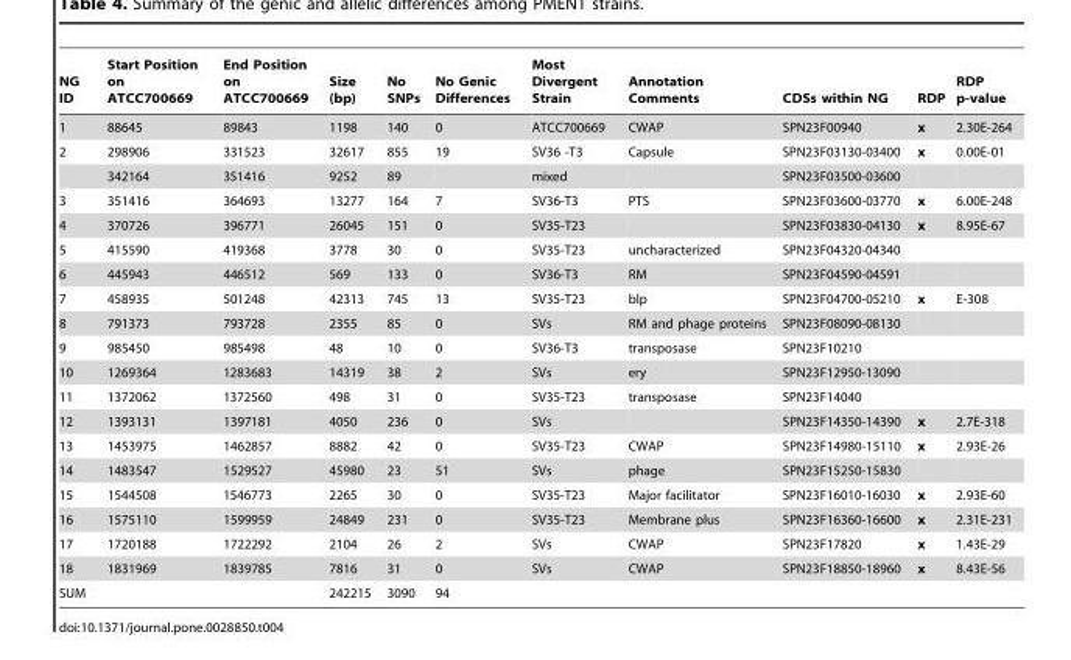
<table><thead><tr><td>NG ID</td><td>Start Position on ATCC700669</td><td>End Position on ATCC700669</td><td>Size (bp)</td><td>No SNPs</td><td>No Genic Differences</td><td>Most Divergent Strain</td><td>Annotation Comments</td><td>CDSs within NG</td><td>RDP</td><td>RDP p-value</td></tr></thead><tbody><tr><td>1</td><td>88645</td><td>89843</td><td>1198</td><td>140</td><td>0</td><td>ATCC700669</td><td>CWAP</td><td>SPN23F00940</td><td>x</td><td>2.30E-264</td></tr><tr><td rowspan="2">2</td><td>298906</td><td>331523</td><td>32617</td><td>855</td><td>19</td><td>SV36 -T3</td><td>Capsule</td><td>SPN23F03130-03400</td><td>x</td><td>0.00E-01</td></tr><tr><td>342164</td><td>351416</td><td>9252</td><td>89</td><td></td><td>mixed</td><td></td><td>SPN23F03500-03600</td><td></td><td></td></tr><tr><td>3</td><td>351416</td><td>364693</td><td>13277</td><td>164</td><td>7</td><td>SV36-T3</td><td>PTS</td><td>SPN23F03600-03770</td><td>x</td><td>6.00E-248</td></tr><tr><td>4</td><td>370726</td><td>396771</td><td>26045</td><td>151</td><td>0</td><td>SV35-T23</td><td></td><td>SPN23F03830-04130</td><td>x</td><td>8.95E-67</td></tr><tr><td>5</td><td>415590</td><td>419368</td><td>3778</td><td>30</td><td>0</td><td>SV35-T23</td><td>uncharacterized</td><td>SPN23F04320-04340</td><td></td><td></td></tr><tr><td>6</td><td>445943</td><td>446512</td><td>569</td><td>133</td><td>0</td><td>SV36-T3</td><td>RM</td><td>SPN23F04590-04591</td><td></td><td></td></tr><tr><td>7</td><td>458935</td><td>501248</td><td>42313</td><td>745</td><td>13</td><td>SV35-T23</td><td>blp</td><td>SPN23F04700-05210</td><td>x</td><td>E-308</td></tr><tr><td>8</td><td>791373</td><td>793728</td><td>2355</td><td>85</td><td>0</td><td>SVs</td><td>RM and phage proteins</td><td>SPN23F08090-08130</td><td></td><td></td></tr><tr><td>9</td><td>985450</td><td>985498</td><td>48</td><td>10</td><td>0</td><td>SV36-T3</td><td>transposase</td><td>SPN23F10210</td><td></td><td></td></tr><tr><td>10</td><td>1269364</td><td>1283683</td><td>14319</td><td>38</td><td>2</td><td>SVs</td><td>ery</td><td>SPN23F12950-13090</td><td></td><td></td></tr><tr><td>11</td><td>1372062</td><td>1372560</td><td>498</td><td>31</td><td>0</td><td>SV35-T23</td><td>transposase</td><td>SPN23F14040</td><td></td><td></td></tr><tr><td>12</td><td>1393131</td><td>1397181</td><td>4050</td><td>236</td><td>0</td><td>SVs</td><td></td><td>SPN23F14350-14390</td><td>x</td><td>2.7E-318</td></tr><tr><td>13</td><td>1453975</td><td>1462857</td><td>8882</td><td>42</td><td>0</td><td>SV35-T23</td><td>CWAP</td><td>SPN23F14980-15110</td><td>x</td><td>2.93E-26</td></tr><tr><td>14</td><td>1483547</td><td>1529527</td><td>45980</td><td>23</td><td>51</td><td>SVs</td><td>phage</td><td>SPN23F15250-15830</td><td></td><td></td></tr><tr><td>15</td><td>1544508</td><td>1546773</td><td>2265</td><td>30</td><td>0</td><td>SV35-T23</td><td>Major facilitator</td><td>SPN23F16010-16030</td><td>x</td><td>2.93E-60</td></tr><tr><td>16</td><td>1575110</td><td>1599959</td><td>24849</td><td>231</td><td>0</td><td>SV35-T23</td><td>Membrane plus</td><td>SPN23F16360-16600</td><td>x</td><td>2.31E-231</td></tr><tr><td>17</td><td>1720188</td><td>1722292</td><td>2104</td><td>26</td><td>2</td><td>SVs</td><td>CWAP</td><td>SPN23F17820</td><td>x</td><td>1.43E-29</td></tr><tr><td>18</td><td>1831969</td><td>1839785</td><td>7816</td><td>31</td><td>0</td><td>SVs</td><td>CWAP</td><td>SPN23F18850-18960</td><td>x</td><td>8.43E-56</td></tr><tr><td>SUM</td><td></td><td></td><td>242215</td><td>3090</td><td>94</td><td></td><td></td><td></td><td></td><td></td></tr></tbody></table>